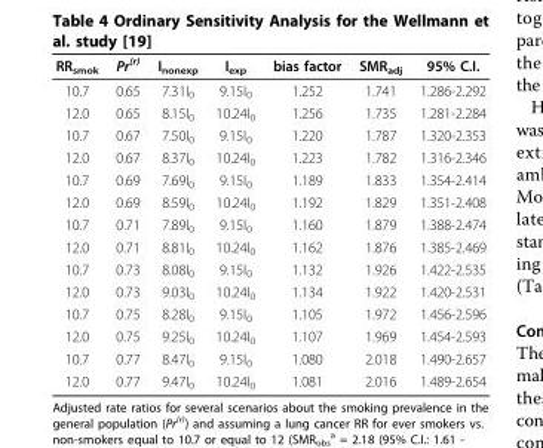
<table><thead><tr><td>RR<sub>smok</sub></td><td>Pr<sup>(r)</sup></td><td>I<sub>nonexp</sub></td><td>I<sub>exp</sub></td><td>bias factor</td><td>SMR<sub>adj</sub></td><td>95% C.I.</td></tr></thead><tbody><tr><td>10.7</td><td>0.65</td><td>7.31I<sub>0</sub></td><td>9.15I<sub>0</sub></td><td>1.252</td><td>1.741</td><td>1.286-2.292</td></tr><tr><td>12.0</td><td>0.65</td><td>8.15I<sub>0</sub></td><td>10.24I<sub>0</sub></td><td>1.256</td><td>1.735</td><td>1.281-2.284</td></tr><tr><td>10.7</td><td>0.67</td><td>7.50I<sub>0</sub></td><td>9.15I<sub>0</sub></td><td>1.220</td><td>1.787</td><td>1.320-2.353</td></tr><tr><td>12.0</td><td>0.67</td><td>8.37I<sub>0</sub></td><td>10.24I<sub>0</sub></td><td>1.223</td><td>1.782</td><td>1.316-2.346</td></tr><tr><td>10.7</td><td>0.69</td><td>7.69I<sub>0</sub></td><td>9.15I<sub>0</sub></td><td>1.189</td><td>1.833</td><td>1.354-2.414</td></tr><tr><td>12.0</td><td>0.69</td><td>8.59I<sub>0</sub></td><td>10.24I<sub>0</sub></td><td>1.192</td><td>1.829</td><td>1.351-2.408</td></tr><tr><td>10.7</td><td>0.71</td><td>7.89I<sub>0</sub></td><td>9.15I<sub>0</sub></td><td>1.160</td><td>1.879</td><td>1.388-2.474</td></tr><tr><td>12.0</td><td>0.71</td><td>8.81I<sub>0</sub></td><td>10.24I<sub>0</sub></td><td>1.162</td><td>1.876</td><td>1.385-2.469</td></tr><tr><td>10.7</td><td>0.73</td><td>8.08I<sub>0</sub></td><td>9.15I<sub>0</sub></td><td>1.132</td><td>1.926</td><td>1.422-2.535</td></tr><tr><td>12.0</td><td>0.73</td><td>9.03I<sub>0</sub></td><td>10.24I<sub>0</sub></td><td>1.134</td><td>1.922</td><td>1.420-2.531</td></tr><tr><td>10.7</td><td>0.75</td><td>8.28I<sub>0</sub></td><td>9.15I<sub>0</sub></td><td>1.105</td><td>1.972</td><td>1.456-2.596</td></tr><tr><td>12.0</td><td>0.75</td><td>9.25I<sub>0</sub></td><td>10.24I<sub>0</sub></td><td>1.107</td><td>1.969</td><td>1.454-2.593</td></tr><tr><td>10.7</td><td>0.77</td><td>8.47I<sub>0</sub></td><td>9.15I<sub>0</sub></td><td>1.080</td><td>2.018</td><td>1.490-2.657</td></tr><tr><td>12.0</td><td>0.77</td><td>9.47I<sub>0</sub></td><td>10.24I<sub>0</sub></td><td>1.081</td><td>2.016</td><td>1.489-2.654</td></tr></tbody></table>